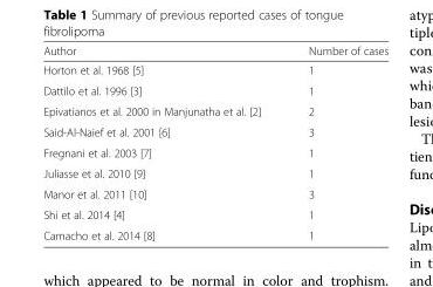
<table><thead><tr><td>Author</td><td>Number of cases</td></tr></thead><tbody><tr><td>Horton et al. 1968 [5]</td><td>1</td></tr><tr><td>Dattilo et al. 1996 [3]</td><td>1</td></tr><tr><td>Epivatianos et al. 2000 in Manjunatha et al. [2]</td><td>2</td></tr><tr><td>Said-Al-Naief et al. 2001 [6]</td><td>3</td></tr><tr><td>Fregnani et al. 2003 [7]</td><td>1</td></tr><tr><td>Juliasse et al. 2010 [9]</td><td>1</td></tr><tr><td>Manor et al. 2011 [10]</td><td>3</td></tr><tr><td>Shi et al. 2014 [4]</td><td>1</td></tr><tr><td>Camacho et al. 2014 [8]</td><td>1</td></tr></tbody></table>